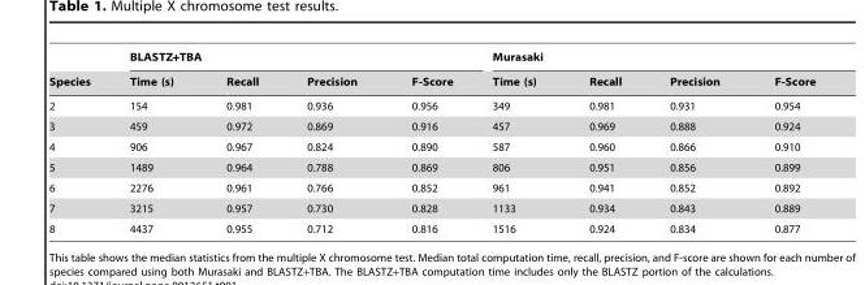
<table><thead><tr><td rowspan="2">Species</td><td colspan="4">BLASTZ+TBA</td><td colspan="4">Murasaki</td></tr><tr><td>Time (s)</td><td>Recall</td><td>Precision</td><td>F-Score</td><td>Time (s)</td><td>Recall</td><td>Precision</td><td>F-Score</td></tr></thead><tbody><tr><td>2</td><td>154</td><td>0.981</td><td>0.936</td><td>0.956</td><td>349</td><td>0.981</td><td>0.931</td><td>0.954</td></tr><tr><td>3</td><td>459</td><td>0.972</td><td>0.869</td><td>0.916</td><td>457</td><td>0.969</td><td>0.888</td><td>0.924</td></tr><tr><td>4</td><td>906</td><td>0.967</td><td>0.824</td><td>0.890</td><td>587</td><td>0.960</td><td>0.866</td><td>0.910</td></tr><tr><td>5</td><td>1489</td><td>0.964</td><td>0.788</td><td>0.869</td><td>806</td><td>0.951</td><td>0.856</td><td>0.899</td></tr><tr><td>6</td><td>2276</td><td>0.961</td><td>0.766</td><td>0.852</td><td>961</td><td>0.941</td><td>0.852</td><td>0.892</td></tr><tr><td>7</td><td>3215</td><td>0.957</td><td>0.730</td><td>0.828</td><td>1133</td><td>0.934</td><td>0.843</td><td>0.889</td></tr><tr><td>8</td><td>4437</td><td>0.955</td><td>0.712</td><td>0.816</td><td>1516</td><td>0.924</td><td>0.834</td><td>0.877</td></tr></tbody></table>